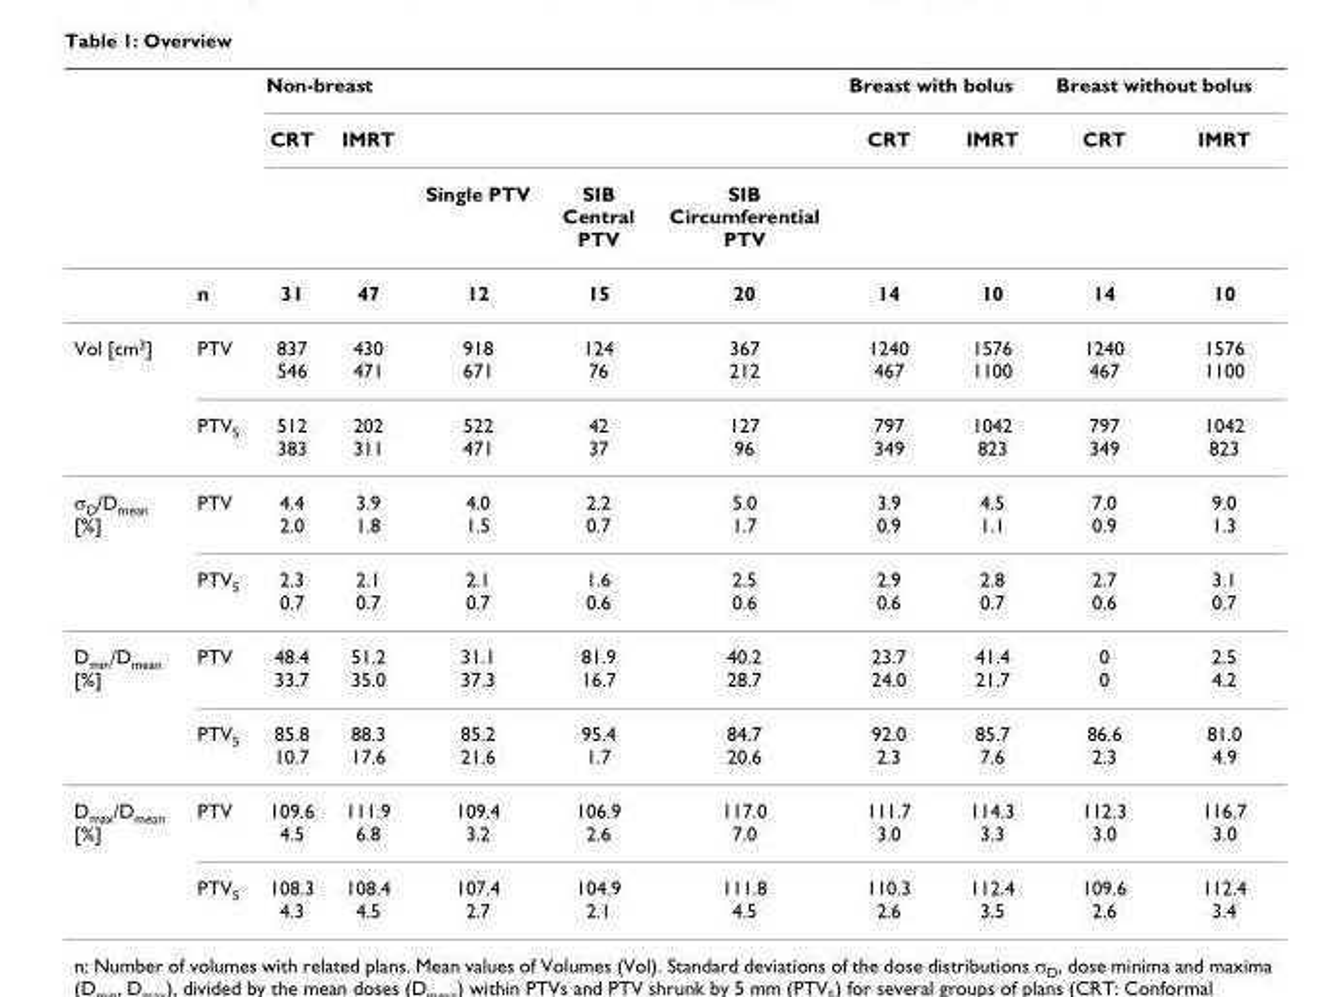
<table><thead><tr><td rowspan="3"></td><td rowspan="3"></td><td colspan="2">Non-breast</td><td rowspan="3">Single PTV</td><td rowspan="3">SIB Central PTV</td><td rowspan="3">SIB Circumferential PTV</td><td colspan="2">Breast with bolus</td><td colspan="2">Breast without bolus</td></tr><tr><td rowspan="2">CRT</td><td rowspan="2">IMRT</td><td rowspan="2">CRT</td><td rowspan="2">IMRT</td><td rowspan="2">CRT</td><td rowspan="2">IMRT</td></tr><tr></tr></thead><tbody><tr><td></td><td>n</td><td>31</td><td>47</td><td>12</td><td>15</td><td>20</td><td>14</td><td>10</td><td>14</td><td>10</td></tr><tr><td rowspan="2">Vol [cm<sup>3</sup>]</td><td>PTV</td><td>837 546</td><td>430 471</td><td>918 671</td><td>124 76</td><td>367 212</td><td>1240 467</td><td>1576 1100</td><td>1240 467</td><td>1576 1100</td></tr><tr><td>PTV<sub>5</sub></td><td>512 383</td><td>202 311</td><td>522 471</td><td>42 37</td><td>127 96</td><td>797 349</td><td>1042 823</td><td>797 349</td><td>1042 823</td></tr><tr><td rowspan="2">σ<sub>D</sub>/D<sub>mean</sub> [%]</td><td>PTV</td><td>4.4 2.0</td><td>3.9 1.8</td><td>4.0 1.5</td><td>2.2 0.7</td><td>5.0 1.7</td><td>3.9 0.9</td><td>4.5 1.1</td><td>7.0 0.9</td><td>9.0 1.3</td></tr><tr><td>PTV<sub>5</sub></td><td>2.3 0.7</td><td>2.1 0.7</td><td>2.1 0.7</td><td>1.6 0.6</td><td>2.5 0.6</td><td>2.9 0.6</td><td>2.8 0.7</td><td>2.7 0.6</td><td>3.1 0.7</td></tr><tr><td rowspan="2">D<sub>min</sub>/D<sub>mean</sub> [%]</td><td>PTV</td><td>48.4 33.7</td><td>51.2 35.0</td><td>31.1 37.3</td><td>81.9 16.7</td><td>40.2 28.7</td><td>23.7 24.0</td><td>41.4 21.7</td><td>0 0</td><td>2.5 4.2</td></tr><tr><td>PTV<sub>5</sub></td><td>85.8 10.7</td><td>88.3 17.6</td><td>85.2 21.6</td><td>95.4 1.7</td><td>84.7 20.6</td><td>92.0 2.3</td><td>85.7 7.6</td><td>86.6 2.3</td><td>81.0 4.9</td></tr><tr><td rowspan="2">D<sub>max</sub>/D<sub>mean</sub> [%]</td><td>PTV</td><td>109.6 4.5</td><td>111.9 6.8</td><td>109.4 3.2</td><td>106.9 2.6</td><td>117.0 7.0</td><td>111.7 3.0</td><td>114.3 3.3</td><td>112.3 3.0</td><td>116.7 3.0</td></tr><tr><td>PTV<sub>5</sub></td><td>108.3 4.3</td><td>108.4 4.5</td><td>107.4 2.7</td><td>104.9 2.1</td><td>111.8 4.5</td><td>110.3 2.6</td><td>112.4 3.5</td><td>109.6 2.6</td><td>112.4 3.4</td></tr></tbody></table>